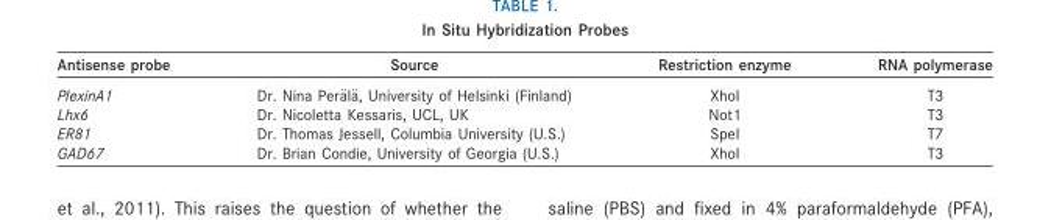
<table><thead><tr><td>Antisense probe</td><td>Source</td><td>Restriction enzyme</td><td>RNA polymerase</td></tr></thead><tbody><tr><td>PlexinA1</td><td>Dr. Nina Per€al€a, University of Helsinki (Finland)</td><td>XhoI</td><td>T3</td></tr><tr><td>Lhx6</td><td>Dr. Nicoletta Kessaris, UCL, UK</td><td>Not1</td><td>T3</td></tr><tr><td>ER81</td><td>Dr. Thomas Jessell, Columbia University (U.S.)</td><td>SpeI</td><td>T7</td></tr><tr><td>GAD67</td><td>Dr. Brian Condie, University of Georgia (U.S.)</td><td>XhoI</td><td>T3</td></tr></tbody></table>